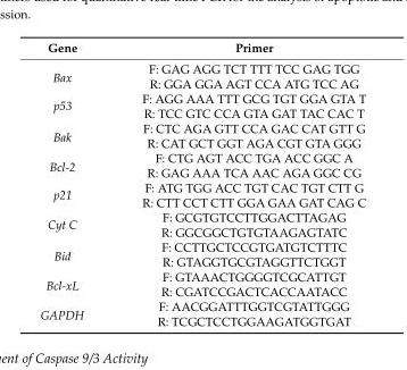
<table><thead><tr><td>Gene</td><td>Primer</td></tr></thead><tbody><tr><td rowspan="2">Bax</td><td>F: GAG AGG TCT TTT TCC GAG TGG</td></tr><tr><td>R: GGA GGA AGT CCA ATG TCC AG</td></tr><tr><td rowspan="2">p53</td><td>F: AGG AAA TTT GCG TGT GGA GTA T</td></tr><tr><td>R: TCC GTC CCA GTA GAT TAC CAC T</td></tr><tr><td rowspan="2">Bak</td><td>F: CTC AGA GTT CCA GAC CAT GTT G</td></tr><tr><td>R: CAT GCT GGT AGA CGT GTA GGG</td></tr><tr><td rowspan="2">Bcl-2</td><td>F: CTG AGT ACC TGA ACC GGC A</td></tr><tr><td>R: GAG AAA TCA AAC AGA GGC CG</td></tr><tr><td rowspan="2">p21</td><td>F: ATG TGG ACC TGT CAC TGT CTT G</td></tr><tr><td>R: CTT CCT CTT GGA GAA GAT CAG C</td></tr><tr><td rowspan="2">Cyt C</td><td>F: GCGTGTCCTTGGACTTAGAG</td></tr><tr><td>R: GGCGGCTGTGTAAGAGTATC</td></tr><tr><td rowspan="2">Bid</td><td>F: CCTTGCTCCGTGATGTCTTTC</td></tr><tr><td>R: GTAGGTGCGTAGGTTCTGGT</td></tr><tr><td rowspan="2">Bcl-xL</td><td>F: GTAAACTGGGGTCGCATTGT</td></tr><tr><td>R: CGATCCGACTCACCAATACC</td></tr><tr><td rowspan="2">GAPDH</td><td>F: AACGGATTTGGTCGTATTGGG</td></tr><tr><td>R: TCGCTCCTGGAAGATGGTGAT</td></tr></tbody></table>